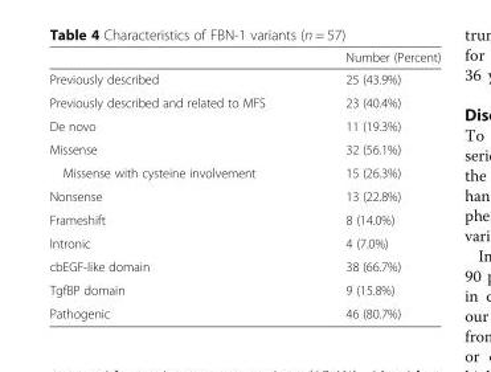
<table><thead><tr><td></td><td>Number (Percent)</td></tr></thead><tbody><tr><td>Previously described</td><td>25 (43.9%)</td></tr><tr><td>Previously described and related to MFS</td><td>23 (40.4%)</td></tr><tr><td>De novo</td><td>11 (19.3%)</td></tr><tr><td>Missense</td><td>32 (56.1%)</td></tr><tr><td>Missense with cysteine involvement</td><td>15 (26.3%)</td></tr><tr><td>Nonsense</td><td>13 (22.8%)</td></tr><tr><td>Frameshift</td><td>8 (14.0%)</td></tr><tr><td>Intronic</td><td>4 (7.0%)</td></tr><tr><td>cbEGF-like domain</td><td>38 (66.7%)</td></tr><tr><td>TgfBP domain</td><td>9 (15.8%)</td></tr><tr><td>Pathogenic</td><td>46 (80.7%)</td></tr></tbody></table>